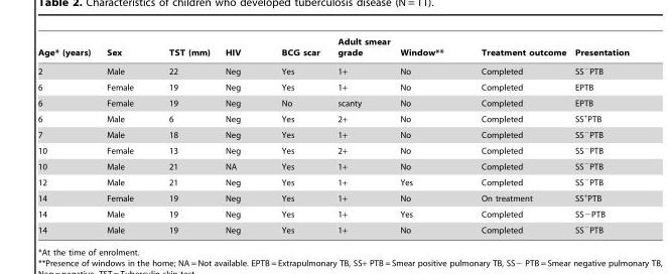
<table><thead><tr><td>Age* (years)</td><td>Sex</td><td>TST (mm)</td><td>HIV</td><td>BCG scar</td><td>Adult smear grade</td><td>Window**</td><td>Treatment outcome</td><td>Presentation</td></tr></thead><tbody><tr><td>2</td><td>Male</td><td>22</td><td>Neg</td><td>Yes</td><td>1+</td><td>No</td><td>Completed</td><td>SS<sup>−</sup>PTB</td></tr><tr><td>6</td><td>Female</td><td>19</td><td>Neg</td><td>Yes</td><td>1+</td><td>No</td><td>Completed</td><td>EPTB</td></tr><tr><td>6</td><td>Female</td><td>19</td><td>Neg</td><td>No</td><td>scanty</td><td>No</td><td>Completed</td><td>EPTB</td></tr><tr><td>6</td><td>Male</td><td>6</td><td>Neg</td><td>Yes</td><td>2+</td><td>No</td><td>Completed</td><td>SS<sup>+</sup>PTB</td></tr><tr><td>7</td><td>Male</td><td>18</td><td>Neg</td><td>Yes</td><td>1+</td><td>No</td><td>Completed</td><td>SS<sup>−</sup>PTB</td></tr><tr><td>10</td><td>Female</td><td>13</td><td>Neg</td><td>Yes</td><td>2+</td><td>No</td><td>Completed</td><td>SS<sup>−</sup>PTB</td></tr><tr><td>10</td><td>Male</td><td>21</td><td>NA</td><td>Yes</td><td>1+</td><td>No</td><td>Completed</td><td>SS<sup>−</sup>PTB</td></tr><tr><td>12</td><td>Male</td><td>21</td><td>Neg</td><td>Yes</td><td>1+</td><td>Yes</td><td>Completed</td><td>SS<sup>−</sup>PTB</td></tr><tr><td>14</td><td>Female</td><td>19</td><td>Neg</td><td>Yes</td><td>1+</td><td>No</td><td>On treatment</td><td>SS<sup>+</sup>PTB</td></tr><tr><td>14</td><td>Male</td><td>19</td><td>Neg</td><td>Yes</td><td>1+</td><td>Yes</td><td>Completed</td><td>SS−PTB</td></tr><tr><td>14</td><td>Male</td><td>19</td><td>Neg</td><td>Yes</td><td>1+</td><td>No</td><td>Completed</td><td>SS<sup>−</sup>PTB</td></tr></tbody></table>